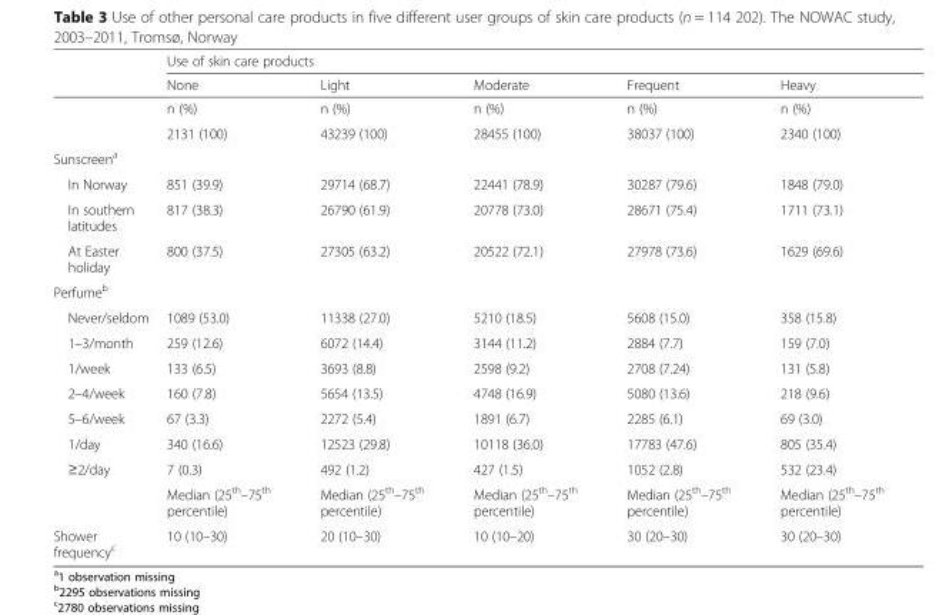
<table><thead><tr><td rowspan="2"></td><td colspan="5">Use of skin care products</td></tr><tr><td>None</td><td>Light</td><td>Moderate</td><td>Frequent</td><td>Heavy</td></tr></thead><tbody><tr><td></td><td>n (%)</td><td>n (%)</td><td>n (%)</td><td>n (%)</td><td>n (%)</td></tr><tr><td></td><td>2131 (100)</td><td>43239 (100)</td><td>28455 (100)</td><td>38037 (100)</td><td>2340 (100)</td></tr><tr><td colspan="6">Sunscreen<sup>a</sup></td></tr><tr><td>In Norway</td><td>851 (39.9)</td><td>29714 (68.7)</td><td>22441 (78.9)</td><td>30287 (79.6)</td><td>1848 (79.0)</td></tr><tr><td>In southern latitudes</td><td>817 (38.3)</td><td>26790 (61.9)</td><td>20778 (73.0)</td><td>28671 (75.4)</td><td>1711 (73.1)</td></tr><tr><td>At Easter holiday</td><td>800 (37.5)</td><td>27305 (63.2)</td><td>20522 (72.1)</td><td>27978 (73.6)</td><td>1629 (69.6)</td></tr><tr><td colspan="6">Perfume<sup>b</sup></td></tr><tr><td>Never/seldom</td><td>1089 (53.0)</td><td>11338 (27.0)</td><td>5210 (18.5)</td><td>5608 (15.0)</td><td>358 (15.8)</td></tr><tr><td>1–3/month</td><td>259 (12.6)</td><td>6072 (14.4)</td><td>3144 (11.2)</td><td>2884 (7.7)</td><td>159 (7.0)</td></tr><tr><td>1/week</td><td>133 (6.5)</td><td>3693 (8.8)</td><td>2598 (9.2)</td><td>2708 (7.24)</td><td>131 (5.8)</td></tr><tr><td>2–4/week</td><td>160 (7.8)</td><td>5654 (13.5)</td><td>4748 (16.9)</td><td>5080 (13.6)</td><td>218 (9.6)</td></tr><tr><td>5–6/week</td><td>67 (3.3)</td><td>2272 (5.4)</td><td>1891 (6.7)</td><td>2285 (6.1)</td><td>69 (3.0)</td></tr><tr><td>1/day</td><td>340 (16.6)</td><td>12523 (29.8)</td><td>10118 (36.0)</td><td>17783 (47.6)</td><td>805 (35.4)</td></tr><tr><td rowspan="2">≥2/day</td><td>7 (0.3)</td><td>492 (1.2)</td><td>427 (1.5)</td><td>1052 (2.8)</td><td>532 (23.4)</td></tr><tr><td>Median (25<sup>th</sup>–75<sup>th</sup> percentile)</td><td>Median (25<sup>th</sup>–75<sup>th</sup> percentile)</td><td>Median (25<sup>th</sup>–75<sup>th</sup> percentile)</td><td>Median (25<sup>th</sup>–75<sup>th</sup> percentile)</td><td>Median (25<sup>th</sup>–75<sup>th</sup> percentile)</td></tr><tr><td>Shower frequency<sup>c</sup></td><td>10 (10–30)</td><td>20 (10–30)</td><td>10 (10–20)</td><td>30 (20–30)</td><td>30 (20–30)</td></tr></tbody></table>